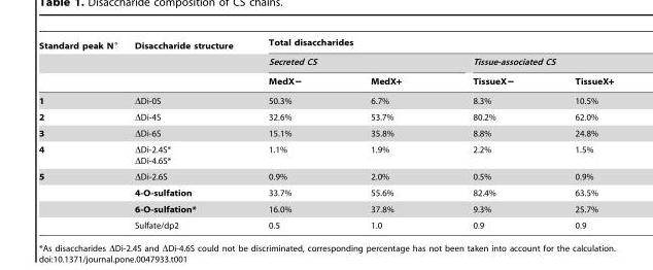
<table><thead><tr><td rowspan="3">Standard peak N°</td><td rowspan="3">Disaccharide structure</td><td colspan="4">Total disaccharides</td></tr><tr><td colspan="2">Secreted CS</td><td colspan="2">Tissue-associated CS</td></tr><tr><td>MedX−</td><td>MedX+</td><td>TissueX−</td><td>TissueX+</td></tr></thead><tbody><tr><td>1</td><td>ΔDi-0S</td><td>50.3%</td><td>6.7%</td><td>8.3%</td><td>10.5%</td></tr><tr><td>2</td><td>ΔDi-4S</td><td>32.6%</td><td>53.7%</td><td>80.2%</td><td>62.0%</td></tr><tr><td>3</td><td>ΔDi-6S</td><td>15.1%</td><td>35.8%</td><td>8.8%</td><td>24.8%</td></tr><tr><td>4</td><td>ΔDi-2.4S* ΔDi-4.6S*</td><td>1.1%</td><td>1.9%</td><td>2.2%</td><td>1.5%</td></tr><tr><td rowspan="4">5</td><td>ΔDi-2.6S</td><td>0.9%</td><td>2.0%</td><td>0.5%</td><td>0.9%</td></tr><tr><td>4-O-sulfation</td><td>33.7%</td><td>55.6%</td><td>82.4%</td><td>63.5%</td></tr><tr><td>6-O-sulfation*</td><td>16.0%</td><td>37.8%</td><td>9.3%</td><td>25.7%</td></tr><tr><td>Sulfate/dp2</td><td>0.5</td><td>1.0</td><td>0.9</td><td>0.9</td></tr></tbody></table>